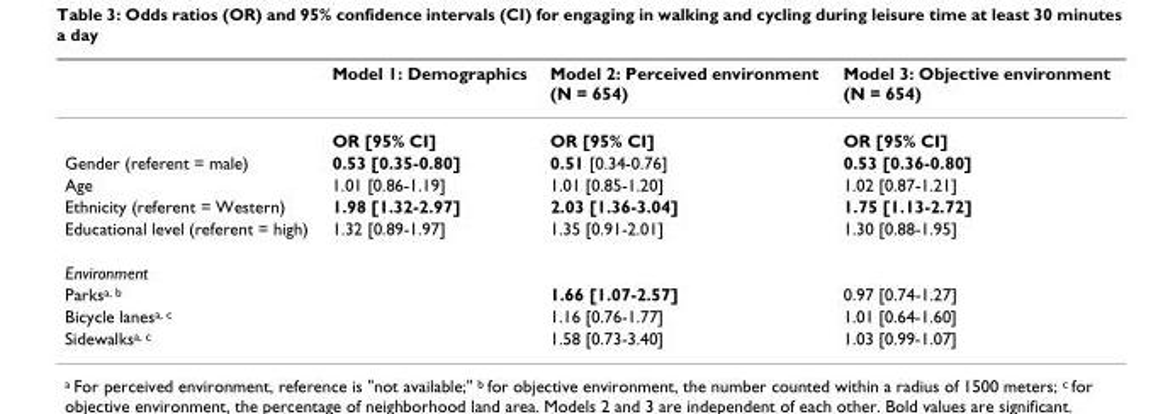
<table><thead><tr><td></td><td>Model 1: Demographics</td><td>Model 2: Perceived environment (N = 654)</td><td>Model 3: Objective environment (N = 654)</td></tr></thead><tbody><tr><td></td><td>OR [95% CI]</td><td>OR [95% CI]</td><td>OR [95% CI]</td></tr><tr><td>Gender (referent = male)</td><td>0.53 [0.35-0.80]</td><td>0.51 [0.34-0.76]</td><td>0.53 [0.36-0.80]</td></tr><tr><td>Age</td><td>1.01 [0.86-1.19]</td><td>1.01 [0.85-1.20]</td><td>1.02 [0.87-1.21]</td></tr><tr><td>Ethnicity (referent = Western)</td><td>1.98 [1.32-2.97]</td><td>2.03 [1.36-3.04]</td><td>1.75 [1.13-2.72]</td></tr><tr><td>Educational level (referent = high)</td><td>1.32 [0.89-1.97]</td><td>1.35 [0.91-2.01]</td><td>1.30 [0.88-1.95]</td></tr><tr><td colspan="4">Environment</td></tr><tr><td>Parks<sup>a, b</sup></td><td></td><td>1.66 [1.07-2.57]</td><td>0.97 [0.74-1.27]</td></tr><tr><td>Bicycle lanes<sup>a, c</sup></td><td></td><td>1.16 [0.76-1.77]</td><td>1.01 [0.64-1.60]</td></tr><tr><td>Sidewalks<sup>a, c</sup></td><td></td><td>1.58 [0.73-3.40]</td><td>1.03 [0.99-1.07]</td></tr></tbody></table>